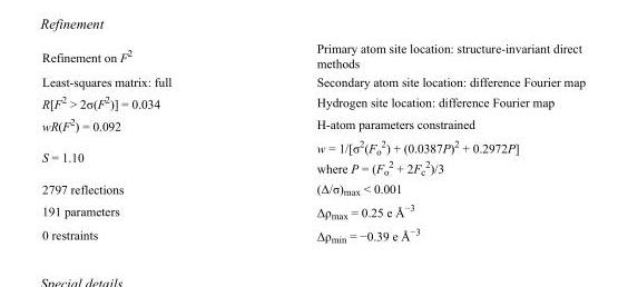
<table><tbody><tr><td>Refinement on F<sup>2</sup></td><td>Primary atom site location: structure-invariant direct methods</td></tr><tr><td>Least-squares matrix: full</td><td>Secondary atom site location: difference Fourier map</td></tr><tr><td>R[F<sup>2</sup> &gt; 2σ(F<sup>2</sup>)] = 0.034</td><td>Hydrogen site location: difference Fourier map</td></tr><tr><td>wR(F<sup>2</sup>) = 0.092</td><td>H-atom parameters constrained</td></tr><tr><td>S = 1.10</td><td>w = 1/[σ<sup>2</sup>(F<sub>o</sub> <sup>2</sup>) + (0.0387P)<sup>2</sup> + 0.2972P] where P = (F<sub>o</sub> <sup>2</sup> + 2F<sub>c</sub> <sup>2</sup>)/3</td></tr><tr><td>2797 reflections</td><td>(Δ/σ)<sub>max</sub> &lt; 0.001</td></tr><tr><td>191 parameters</td><td>Δρ<sub>max</sub> = 0.25 e Å<sup>−3</sup></td></tr><tr><td>0 restraints</td><td>Δρ<sub>min</sub> = −0.39 e Å<sup>−3</sup></td></tr></tbody></table>